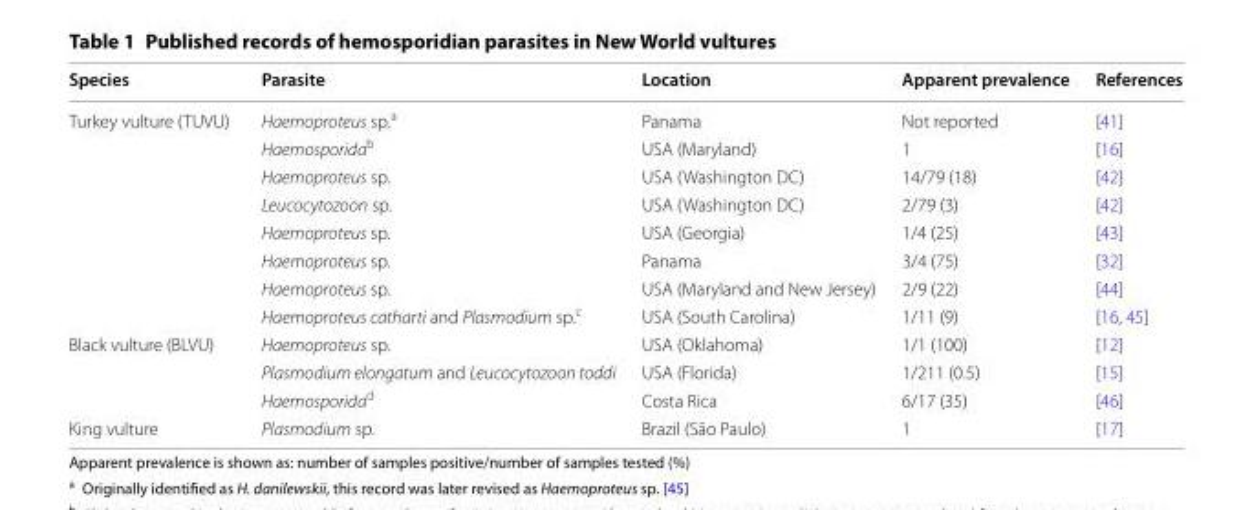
<table><thead><tr><td>Species</td><td>Parasite</td><td>Location</td><td>Apparent prevalence</td><td>References</td></tr></thead><tbody><tr><td rowspan="8">Turkey vulture (TUVU)</td><td>Haemoproteus sp.<sup>a</sup></td><td>Panama</td><td>Not reported</td><td>[41]</td></tr><tr><td>Haemosporida<sup>b</sup></td><td>USA (Maryland)</td><td>1</td><td>[16]</td></tr><tr><td>Haemoproteus sp.</td><td>USA (Washington DC)</td><td>14/79 (18)</td><td>[42]</td></tr><tr><td>Leucocytozoon sp.</td><td>USA (Washington DC)</td><td>2/79 (3)</td><td>[42]</td></tr><tr><td>Haemoproteus sp.</td><td>USA (Georgia)</td><td>1/4 (25)</td><td>[43]</td></tr><tr><td>Haemoproteus sp.</td><td>Panama</td><td>3/4 (75)</td><td>[32]</td></tr><tr><td>Haemoproteus sp.</td><td>USA (Maryland and New Jersey)</td><td>2/9 (22)</td><td>[44]</td></tr><tr><td>Haemoproteus catharti and Plasmodium sp.<sup>c</sup></td><td>USA (South Carolina)</td><td>1/11 (9)</td><td>[16, 45]</td></tr><tr><td rowspan="3">Black vulture (BLVU)</td><td>Haemoproteus sp.</td><td>USA (Oklahoma)</td><td>1/1 (100)</td><td>[12]</td></tr><tr><td>Plasmodium elongatum and Leucocytozoon toddi</td><td>USA (Florida)</td><td>1/211 (0.5)</td><td>[15]</td></tr><tr><td>Haemosporida<sup>d</sup></td><td>Costa Rica</td><td>6/17 (35)</td><td>[46]</td></tr><tr><td>King vulture</td><td>Plasmodium sp.</td><td>Brazil (São Paulo)</td><td>1</td><td>[17]</td></tr></tbody></table>